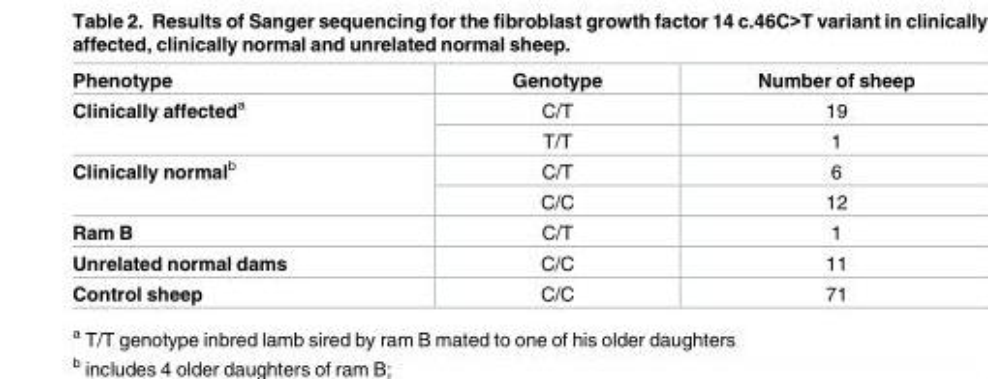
<table><thead><tr><td>Phenotype</td><td>Genotype</td><td>Number of sheep</td></tr></thead><tbody><tr><td rowspan="2">Clinically affected<sup>a</sup></td><td>C/T</td><td>19</td></tr><tr><td>T/T</td><td>1</td></tr><tr><td rowspan="2">Clinically normal<sup>b</sup></td><td>C/T</td><td>6</td></tr><tr><td>C/C</td><td>12</td></tr><tr><td>Ram B</td><td>C/T</td><td>1</td></tr><tr><td>Unrelated normal dams</td><td>C/C</td><td>11</td></tr><tr><td>Control sheep</td><td>C/C</td><td>71</td></tr></tbody></table>